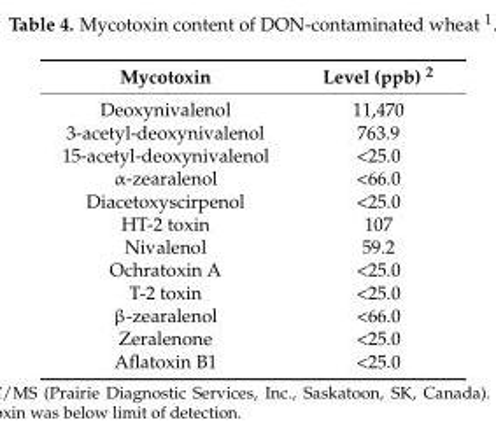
<table><thead><tr><td>Mycotoxin</td><td>Level (ppb) <sup>2</sup></td></tr></thead><tbody><tr><td>Deoxynivalenol</td><td>11,470</td></tr><tr><td>3-acetyl-deoxynivalenol</td><td>763.9</td></tr><tr><td>15-acetyl-deoxynivalenol</td><td>&lt;25.0</td></tr><tr><td>α-zearalenol</td><td>&lt;66.0</td></tr><tr><td>Diacetoxyscirpenol</td><td>&lt;25.0</td></tr><tr><td>HT-2 toxin</td><td>107</td></tr><tr><td>Nivalenol</td><td>59.2</td></tr><tr><td>Ochratoxin A</td><td>&lt;25.0</td></tr><tr><td>T-2 toxin</td><td>&lt;25.0</td></tr><tr><td>β-zearalenol</td><td>&lt;66.0</td></tr><tr><td>Zeralenone</td><td>&lt;25.0</td></tr><tr><td>Aflatoxin B1</td><td>&lt;25.0</td></tr></tbody></table>